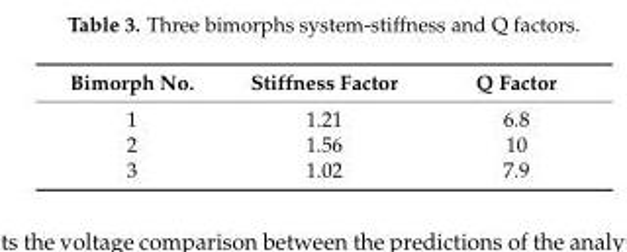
<table><thead><tr><td>Bimorph No.</td><td>Stiffness Factor</td><td>Q Factor</td></tr></thead><tbody><tr><td>1</td><td>1.21</td><td>6.8</td></tr><tr><td>2</td><td>1.56</td><td>10</td></tr><tr><td>3</td><td>1.02</td><td>7.9</td></tr></tbody></table>